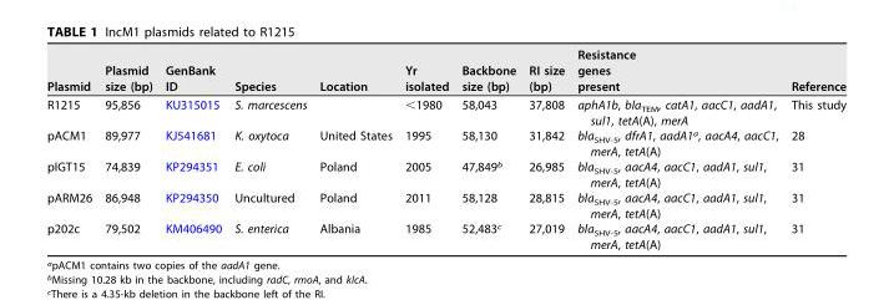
<table><thead><tr><td>Plasmid</td><td>Plasmid size (bp)</td><td>GenBank ID</td><td>Species</td><td>Location</td><td>Yr isolated</td><td>Backbone size (bp)</td><td>RI size (bp)</td><td>Resistance genes present</td><td>Reference</td></tr></thead><tbody><tr><td>R1215</td><td>95,856</td><td>KU315015</td><td>S. marcescens</td><td></td><td>&lt;1980</td><td>58,043</td><td>37,808</td><td>aphA1b, bla<sub>TEM</sub>, catA1, aacC1, aadA1, sul1, tetA(A), merA</td><td>This study</td></tr><tr><td>pACM1</td><td>89,977</td><td>KJ541681</td><td>K. oxytoca</td><td>United States</td><td>1995</td><td>58,130</td><td>31,842</td><td>bla<sub>SHV-5</sub>, dfrA1, aadA1<sup>a</sup>, aacA4, aacC1, merA, tetA(A)</td><td>28</td></tr><tr><td>pIGT15</td><td>74,839</td><td>KP294351</td><td>E. coli</td><td>Poland</td><td>2005</td><td>47,849<sup>b</sup></td><td>26,985</td><td>bla<sub>SHV-5</sub>, aacA4, aacC1, aadA1, sul1, merA, tetA(A)</td><td>31</td></tr><tr><td>pARM26</td><td>86,948</td><td>KP294350</td><td>Uncultured</td><td>Poland</td><td>2011</td><td>58,128</td><td>28,815</td><td>bla<sub>SHV-5</sub>, aacA4, aacC1, aadA1, sul1, merA, tetA(A)</td><td>31</td></tr><tr><td>p202c</td><td>79,502</td><td>KM406490</td><td>S. enterica</td><td>Albania</td><td>1985</td><td>52,483<sup>c</sup></td><td>27,019</td><td>bla<sub>SHV-5</sub>, aacA4, aacC1, aadA1, sul1, merA, tetA(A)</td><td>31</td></tr></tbody></table>